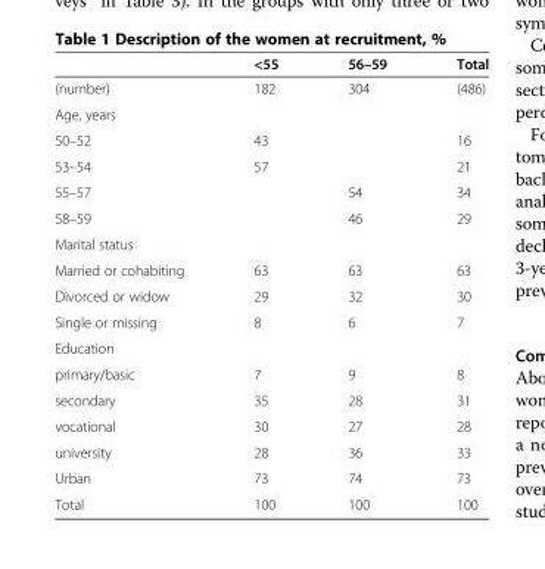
<table><thead><tr><td></td><td>&lt;55</td><td>56–59</td><td>Total</td></tr></thead><tbody><tr><td>(number)</td><td>182</td><td>304</td><td>(486)</td></tr><tr><td colspan="4">Age, years</td></tr><tr><td>50–52</td><td>43</td><td></td><td>16</td></tr><tr><td>53–54</td><td>57</td><td></td><td>21</td></tr><tr><td>55–57</td><td></td><td>54</td><td>34</td></tr><tr><td>58–59</td><td></td><td>46</td><td>29</td></tr><tr><td colspan="4">Marital status</td></tr><tr><td>Married or cohabiting</td><td>63</td><td>63</td><td>63</td></tr><tr><td>Divorced or widow</td><td>29</td><td>32</td><td>30</td></tr><tr><td>Single or missing</td><td>8</td><td>6</td><td>7</td></tr><tr><td colspan="4">Education</td></tr><tr><td>primary/basic</td><td>7</td><td>9</td><td>8</td></tr><tr><td>secondary</td><td>35</td><td>28</td><td>31</td></tr><tr><td>vocational</td><td>30</td><td>27</td><td>28</td></tr><tr><td>university</td><td>28</td><td>36</td><td>33</td></tr><tr><td>Urban</td><td>73</td><td>74</td><td>73</td></tr><tr><td>Total</td><td>100</td><td>100</td><td>100</td></tr></tbody></table>